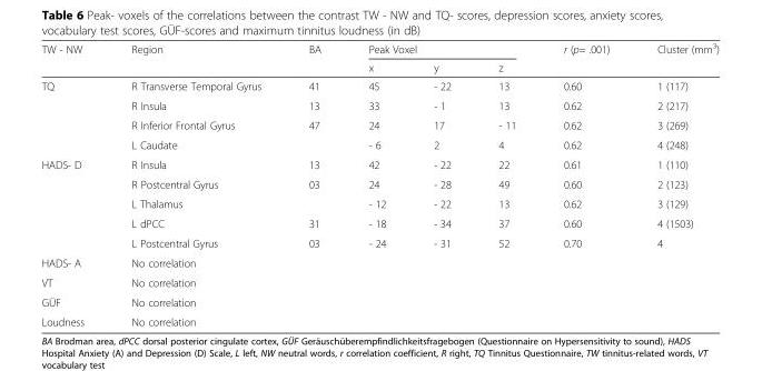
<table><thead><tr><td rowspan="2">TW - NW</td><td rowspan="2">Region</td><td rowspan="2">BA</td><td colspan="3">Peak Voxel</td><td rowspan="2">r (p= .001)</td><td rowspan="2">Cluster (mm<sup>3</sup>)</td></tr><tr><td>x</td><td>y</td><td>z</td></tr></thead><tbody><tr><td rowspan="4">TQ</td><td>R Transverse Temporal Gyrus</td><td>41</td><td>45</td><td>- 22</td><td>13</td><td>0.60</td><td>1 (117)</td></tr><tr><td>R Insula</td><td>13</td><td>33</td><td>- 1</td><td>13</td><td>0.62</td><td>2 (217)</td></tr><tr><td>R Inferior Frontal Gyrus</td><td>47</td><td>24</td><td>17</td><td>- 11</td><td>0.62</td><td>3 (269)</td></tr><tr><td>L Caudate</td><td></td><td>- 6</td><td>2</td><td>4</td><td>0.62</td><td>4 (248)</td></tr><tr><td rowspan="5">HADS- D</td><td>R Insula</td><td>13</td><td>42</td><td>- 22</td><td>22</td><td>0.61</td><td>1 (110)</td></tr><tr><td>R Postcentral Gyrus</td><td>03</td><td>24</td><td>- 28</td><td>49</td><td>0.60</td><td>2 (123)</td></tr><tr><td>L Thalamus</td><td></td><td>- 12</td><td>- 22</td><td>13</td><td>0.62</td><td>3 (129)</td></tr><tr><td>L dPCC</td><td>31</td><td>- 18</td><td>- 34</td><td>37</td><td>0.60</td><td>4 (1503)</td></tr><tr><td>L Postcentral Gyrus</td><td>03</td><td>- 24</td><td>- 31</td><td>52</td><td>0.70</td><td>4</td></tr><tr><td>HADS- A</td><td>No correlation</td><td></td><td></td><td></td><td></td><td></td><td></td></tr><tr><td>VT</td><td>No correlation</td><td></td><td></td><td></td><td></td><td></td><td></td></tr><tr><td>GÜF</td><td>No correlation</td><td></td><td></td><td></td><td></td><td></td><td></td></tr><tr><td>Loudness</td><td>No correlation</td><td></td><td></td><td></td><td></td><td></td><td></td></tr></tbody></table>